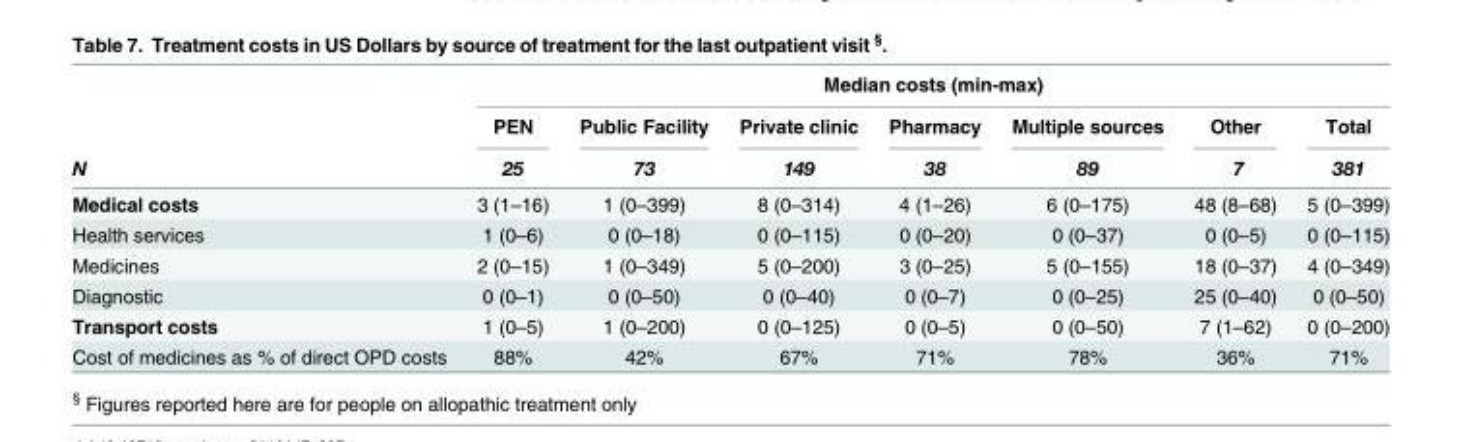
<table><thead><tr><td rowspan="3">N</td><td colspan="7">Median costs (min-max)</td></tr><tr><td rowspan="2">PEN 25</td><td rowspan="2">Public Facility 73</td><td rowspan="2">Private clinic 149</td><td rowspan="2">Pharmacy 38</td><td rowspan="2">Multiple sources 89</td><td rowspan="2">Other 7</td><td rowspan="2">Total 381</td></tr><tr></tr></thead><tbody><tr><td>Medical costs</td><td>3 (1–16)</td><td>1 (0–399)</td><td>8 (0–314)</td><td>4 (1–26)</td><td>6 (0–175)</td><td>48 (8–68)</td><td>5 (0–399)</td></tr><tr><td>Health services</td><td>1 (0–6)</td><td>0 (0–18)</td><td>0 (0–115)</td><td>0 (0–20)</td><td>0 (0–37)</td><td>0 (0–5)</td><td>0 (0–115)</td></tr><tr><td>Medicines</td><td>2 (0–15)</td><td>1 (0–349)</td><td>5 (0–200)</td><td>3 (0–25)</td><td>5 (0–155)</td><td>18 (0–37)</td><td>4 (0–349)</td></tr><tr><td>Diagnostic</td><td>0 (0–1)</td><td>0 (0–50)</td><td>0 (0–40)</td><td>0 (0–7)</td><td>0 (0–25)</td><td>25 (0–40)</td><td>0 (0–50)</td></tr><tr><td>Transport costs</td><td>1 (0–5)</td><td>1 (0–200)</td><td>0 (0–125)</td><td>0 (0–5)</td><td>0 (0–50)</td><td>7 (1–62)</td><td>0 (0–200)</td></tr><tr><td>Cost of medicines as % of direct OPD costs</td><td>88%</td><td>42%</td><td>67%</td><td>71%</td><td>78%</td><td>36%</td><td>71%</td></tr></tbody></table>